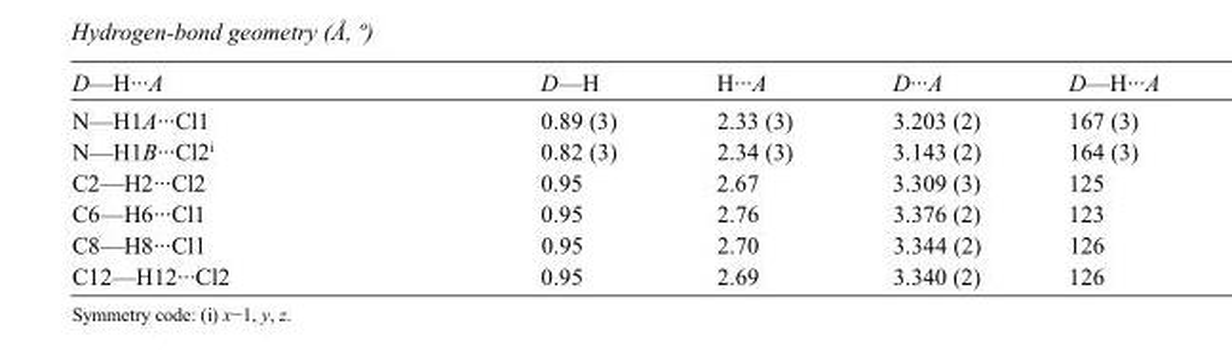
<table><tbody><tr><td>D—H···A</td><td>D—H</td><td>H···A</td><td>D···A</td><td>D—H···A</td></tr><tr><td>N—H1A···Cl1</td><td>0.89 (3)</td><td>2.33 (3)</td><td>3.203 (2)</td><td>167 (3)</td></tr><tr><td>N—H1B···Cl2<sup>i</sup></td><td>0.82 (3)</td><td>2.34 (3)</td><td>3.143 (2)</td><td>164 (3)</td></tr><tr><td>C2—H2···Cl2</td><td>0.95</td><td>2.67</td><td>3.309 (3)</td><td>125</td></tr><tr><td>C6—H6···Cl1</td><td>0.95</td><td>2.76</td><td>3.376 (2)</td><td>123</td></tr><tr><td>C8—H8···Cl1</td><td>0.95</td><td>2.70</td><td>3.344 (2)</td><td>126</td></tr><tr><td>C12—H12···Cl2</td><td>0.95</td><td>2.69</td><td>3.340 (2)</td><td>126</td></tr></tbody></table>